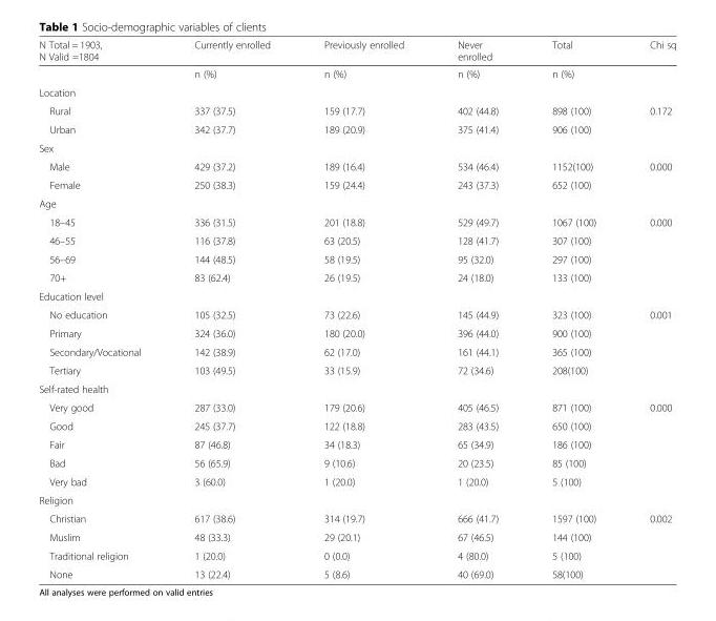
<table><thead><tr><td>N Total = 1903, N Valid =1804</td><td>Currently enrolled</td><td>Previously enrolled</td><td>Never enrolled</td><td>Total</td><td>Chi sq</td></tr></thead><tbody><tr><td></td><td>n (%)</td><td>n (%)</td><td>n (%)</td><td>n (%)</td><td></td></tr><tr><td colspan="6">Location</td></tr><tr><td>Rural</td><td>337 (37.5)</td><td>159 (17.7)</td><td>402 (44.8)</td><td>898 (100)</td><td>0.172</td></tr><tr><td>Urban</td><td>342 (37.7)</td><td>189 (20.9)</td><td>375 (41.4)</td><td>906 (100)</td><td></td></tr><tr><td colspan="6">Sex</td></tr><tr><td>Male</td><td>429 (37.2)</td><td>189 (16.4)</td><td>534 (46.4)</td><td>1152(100)</td><td>0.000</td></tr><tr><td>Female</td><td>250 (38.3)</td><td>159 (24.4)</td><td>243 (37.3)</td><td>652 (100)</td><td></td></tr><tr><td colspan="6">Age</td></tr><tr><td>18–45</td><td>336 (31.5)</td><td>201 (18.8)</td><td>529 (49.7)</td><td>1067 (100)</td><td>0.000</td></tr><tr><td>46–55</td><td>116 (37.8)</td><td>63 (20.5)</td><td>128 (41.7)</td><td>307 (100)</td><td></td></tr><tr><td>56–69</td><td>144 (48.5)</td><td>58 (19.5)</td><td>95 (32.0)</td><td>297 (100)</td><td></td></tr><tr><td>70+</td><td>83 (62.4)</td><td>26 (19.5)</td><td>24 (18.0)</td><td>133 (100)</td><td></td></tr><tr><td colspan="6">Education level</td></tr><tr><td>No education</td><td>105 (32.5)</td><td>73 (22.6)</td><td>145 (44.9)</td><td>323 (100)</td><td>0.001</td></tr><tr><td>Primary</td><td>324 (36.0)</td><td>180 (20.0)</td><td>396 (44.0)</td><td>900 (100)</td><td></td></tr><tr><td>Secondary/Vocational</td><td>142 (38.9)</td><td>62 (17.0)</td><td>161 (44.1)</td><td>365 (100)</td><td></td></tr><tr><td>Tertiary</td><td>103 (49.5)</td><td>33 (15.9)</td><td>72 (34.6)</td><td>208(100)</td><td></td></tr><tr><td colspan="6">Self-rated health</td></tr><tr><td>Very good</td><td>287 (33.0)</td><td>179 (20.6)</td><td>405 (46.5)</td><td>871 (100)</td><td>0.000</td></tr><tr><td>Good</td><td>245 (37.7)</td><td>122 (18.8)</td><td>283 (43.5)</td><td>650 (100)</td><td></td></tr><tr><td>Fair</td><td>87 (46.8)</td><td>34 (18.3)</td><td>65 (34.9)</td><td>186 (100)</td><td></td></tr><tr><td>Bad</td><td>56 (65.9)</td><td>9 (10.6)</td><td>20 (23.5)</td><td>85 (100)</td><td></td></tr><tr><td>Very bad</td><td>3 (60.0)</td><td>1 (20.0)</td><td>1 (20.0)</td><td>5 (100)</td><td></td></tr><tr><td colspan="6">Religion</td></tr><tr><td>Christian</td><td>617 (38.6)</td><td>314 (19.7)</td><td>666 (41.7)</td><td>1597 (100)</td><td>0.002</td></tr><tr><td>Muslim</td><td>48 (33.3)</td><td>29 (20.1)</td><td>67 (46.5)</td><td>144 (100)</td><td></td></tr><tr><td>Traditional religion</td><td>1 (20.0)</td><td>0 (0.0)</td><td>4 (80.0)</td><td>5 (100)</td><td></td></tr><tr><td>None</td><td>13 (22.4)</td><td>5 (8.6)</td><td>40 (69.0)</td><td>58(100)</td><td></td></tr></tbody></table>